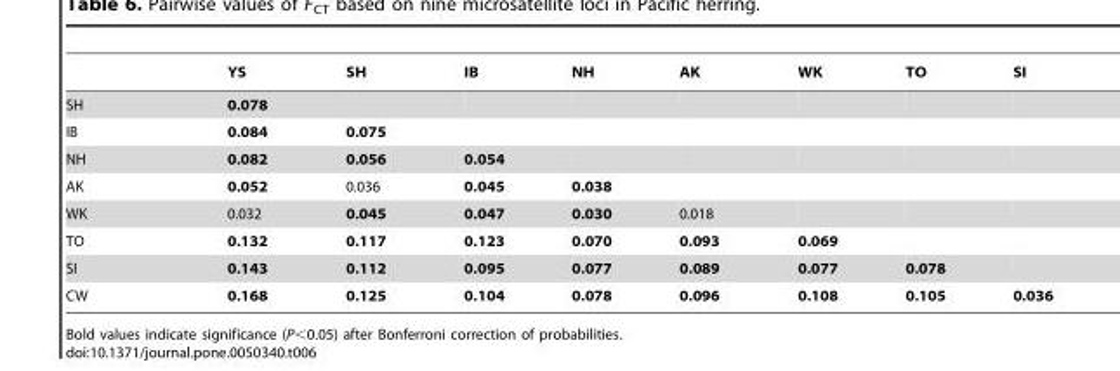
<table><thead><tr><td></td><td>YS</td><td>SH</td><td>IB</td><td>NH</td><td>AK</td><td>WK</td><td>TO</td><td>SI</td></tr></thead><tbody><tr><td>SH</td><td>0.078</td><td></td><td></td><td></td><td></td><td></td><td></td><td></td></tr><tr><td>IB</td><td>0.084</td><td>0.075</td><td></td><td></td><td></td><td></td><td></td><td></td></tr><tr><td>NH</td><td>0.082</td><td>0.056</td><td>0.054</td><td></td><td></td><td></td><td></td><td></td></tr><tr><td>AK</td><td>0.052</td><td>0.036</td><td>0.045</td><td>0.038</td><td></td><td></td><td></td><td></td></tr><tr><td>WK</td><td>0.032</td><td>0.045</td><td>0.047</td><td>0.030</td><td>0.018</td><td></td><td></td><td></td></tr><tr><td>TO</td><td>0.132</td><td>0.117</td><td>0.123</td><td>0.070</td><td>0.093</td><td>0.069</td><td></td><td></td></tr><tr><td>SI</td><td>0.143</td><td>0.112</td><td>0.095</td><td>0.077</td><td>0.089</td><td>0.077</td><td>0.078</td><td></td></tr><tr><td>CW</td><td>0.168</td><td>0.125</td><td>0.104</td><td>0.078</td><td>0.096</td><td>0.108</td><td>0.105</td><td>0.036</td></tr></tbody></table>